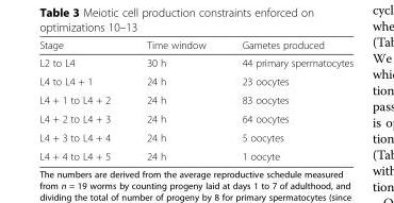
<table><thead><tr><td>Stage</td><td>Time window</td><td>Gametes produced</td></tr></thead><tbody><tr><td>L2 to L4</td><td>30 h</td><td>44 primary spermatocytes</td></tr><tr><td>L4 to L4 + 1</td><td>24 h</td><td>23 oocytes</td></tr><tr><td>L4 + 1 to L4 + 2</td><td>24 h</td><td>83 oocytes</td></tr><tr><td>L4 + 2 to L4 + 3</td><td>24 h</td><td>64 oocytes</td></tr><tr><td>L4 + 3 to L4 + 4</td><td>24 h</td><td>5 oocytes</td></tr><tr><td>L4 + 4 to L4 + 5</td><td>24 h</td><td>1 oocyte</td></tr></tbody></table>